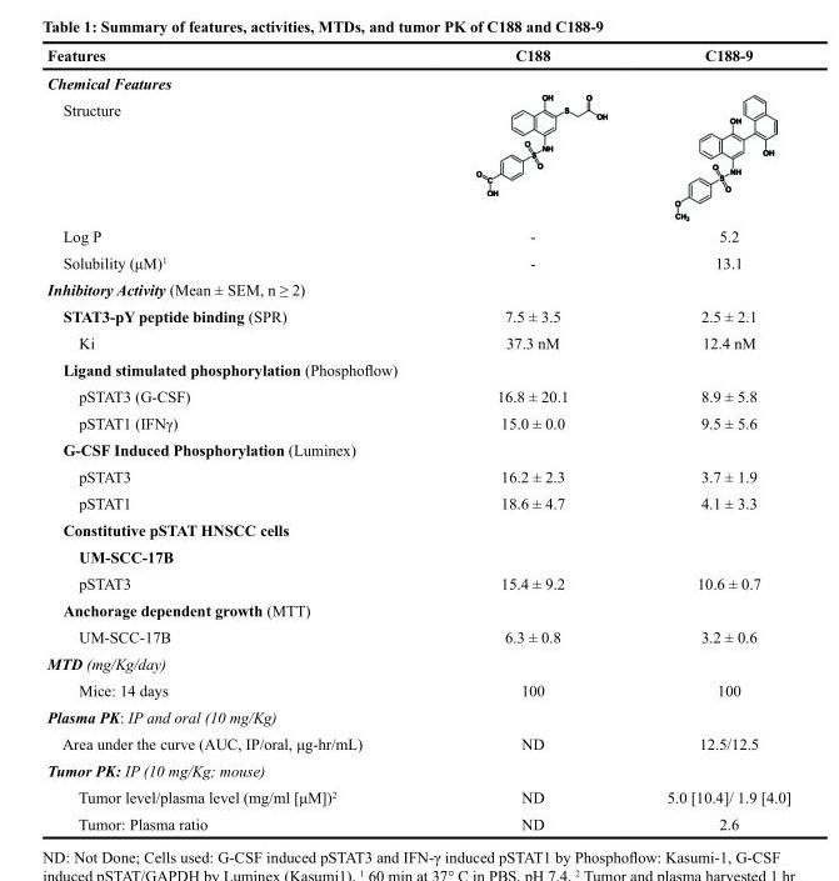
<table><thead><tr><td>Features</td><td>C188</td><td>C188-9</td></tr></thead><tbody><tr><td colspan="3">Chemical Features</td></tr><tr><td colspan="3">Structure</td></tr><tr><td>Log P</td><td>-</td><td>5.2</td></tr><tr><td>Solubility (μM)<sup>1</sup></td><td>-</td><td>13.1</td></tr><tr><td colspan="3">Inhibitory Activity (Mean ± SEM, n ≥ 2)</td></tr><tr><td>STAT3-pY peptide binding (SPR)</td><td>7.5 ± 3.5</td><td>2.5 ± 2.1</td></tr><tr><td>Ki</td><td>37.3 nM</td><td>12.4 nM</td></tr><tr><td colspan="3">Ligand stimulated phosphorylation (Phosphoflow)</td></tr><tr><td>pSTAT3 (G-CSF)</td><td>16.8 ± 20.1</td><td>8.9 ± 5.8</td></tr><tr><td>pSTAT1 (IFNγ)</td><td>15.0 ± 0.0</td><td>9.5 ± 5.6</td></tr><tr><td colspan="3">G-CSF Induced Phosphorylation (Luminex)</td></tr><tr><td>pSTAT3</td><td>16.2 ± 2.3</td><td>3.7 ± 1.9</td></tr><tr><td>pSTAT1</td><td>18.6 ± 4.7</td><td>4.1 ± 3.3</td></tr><tr><td colspan="3">Constitutive pSTAT HNSCC cells</td></tr><tr><td colspan="3">UM-SCC-17B</td></tr><tr><td>pSTAT3</td><td>15.4 ± 9.2</td><td>10.6 ± 0.7</td></tr><tr><td colspan="3">Anchorage dependent growth (MTT)</td></tr><tr><td>UM-SCC-17B</td><td>6.3 ± 0.8</td><td>3.2 ± 0.6</td></tr><tr><td colspan="3">MTD (mg/Kg/day)</td></tr><tr><td>Mice: 14 days</td><td>100</td><td>100</td></tr><tr><td colspan="3">Plasma PK: IP and oral (10 mg/Kg)</td></tr><tr><td>Area under the curve (AUC, IP/oral, μg-hr/mL)</td><td>ND</td><td>12.5/12.5</td></tr><tr><td colspan="3">Tumor PK: IP (10 mg/Kg; mouse)</td></tr><tr><td>Tumor level/plasma level (mg/ml [μM])<sup>2</sup></td><td>ND</td><td>5.0 [10.4]/ 1.9 [4.0]</td></tr><tr><td>Tumor: Plasma ratio</td><td>ND</td><td>2.6</td></tr></tbody></table>